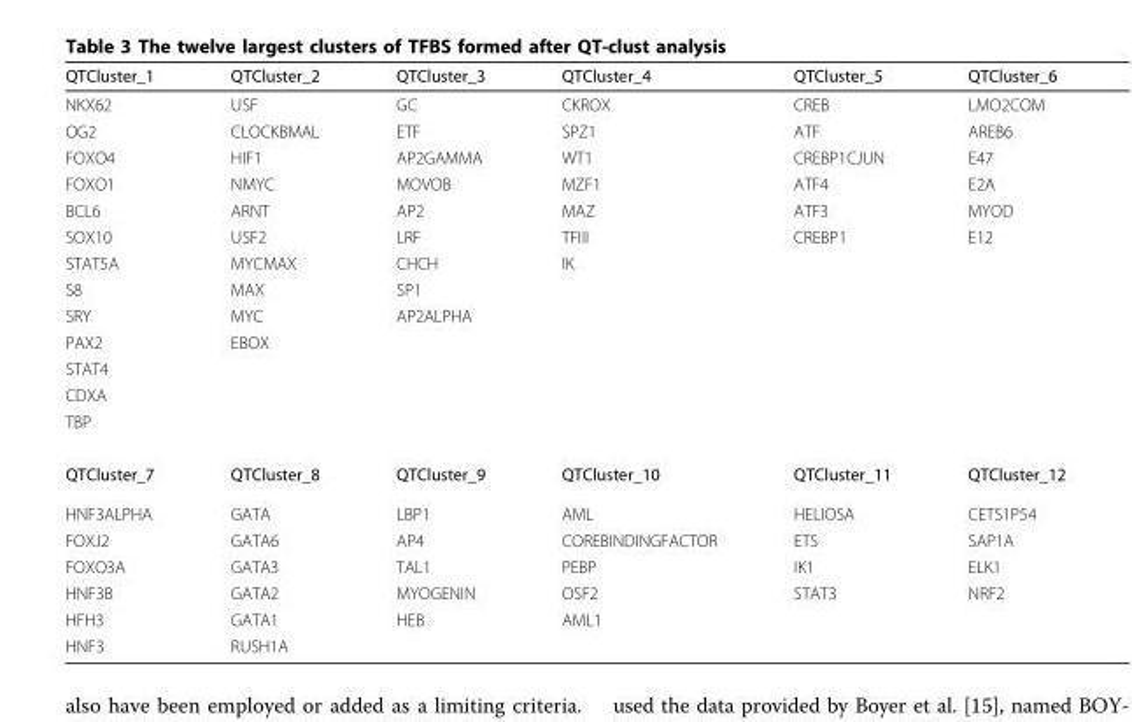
<table><thead><tr><td>QTCluster_1</td><td>QTCluster_2</td><td>QTCluster_3</td><td>QTCluster_4</td><td>QTCluster_5</td><td>QTCluster_6</td></tr></thead><tbody><tr><td>NKX62</td><td>USF</td><td>GC</td><td>CKROX</td><td>CREB</td><td>LMO2COM</td></tr><tr><td>OG2</td><td>CLOCKBMAL</td><td>ETF</td><td>SPZ1</td><td>ATF</td><td>AREB6</td></tr><tr><td>FOXO4</td><td>HIF1</td><td>AP2GAMMA</td><td>WT1</td><td>CREBP1CJUN</td><td>E47</td></tr><tr><td>FOXO1</td><td>NMYC</td><td>MOVOB</td><td>MZF1</td><td>ATF4</td><td>E2A</td></tr><tr><td>BCL6</td><td>ARNT</td><td>AP2</td><td>MAZ</td><td>ATF3</td><td>MYOD</td></tr><tr><td>SOX10</td><td>USF2</td><td>LRF</td><td>TFIII</td><td>CREBP1</td><td>E12</td></tr><tr><td>STAT5A</td><td>MYCMAX</td><td>CHCH</td><td>IK</td><td></td><td></td></tr><tr><td>S8</td><td>MAX</td><td>SP1</td><td></td><td></td><td></td></tr><tr><td>SRY</td><td>MYC</td><td>AP2ALPHA</td><td></td><td></td><td></td></tr><tr><td>PAX2</td><td>EBOX</td><td></td><td></td><td></td><td></td></tr><tr><td colspan="6">STAT4</td></tr><tr><td colspan="6">CDXA</td></tr><tr><td colspan="6">TBP</td></tr><tr><td>QTCluster_7</td><td>QTCluster_8</td><td>QTCluster_9</td><td>QTCluster_10</td><td>QTCluster_11</td><td>QTCluster_12</td></tr><tr><td>HNF3ALPHA</td><td>GATA</td><td>LBP1</td><td>AML</td><td>HELIOSA</td><td>CETS1P54</td></tr><tr><td>FOXJ2</td><td>GATA6</td><td>AP4</td><td>COREBINDINGFACTOR</td><td>ETS</td><td>SAP1A</td></tr><tr><td>FOXO3A</td><td>GATA3</td><td>TAL1</td><td>PEBP</td><td>IK1</td><td>ELK1</td></tr><tr><td>HNF3B</td><td>GATA2</td><td>MYOGENIN</td><td>OSF2</td><td>STAT3</td><td>NRF2</td></tr><tr><td>HFH3</td><td>GATA1</td><td>HEB</td><td>AML1</td><td></td><td></td></tr><tr><td>HNF3</td><td>RUSH1A</td><td></td><td></td><td></td><td></td></tr></tbody></table>